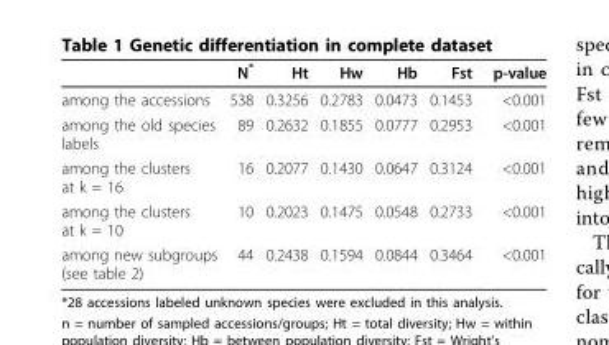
<table><thead><tr><td></td><td>N*</td><td>Ht</td><td>Hw</td><td>Hb</td><td>Fst</td><td>p-value</td></tr></thead><tbody><tr><td>among the accessions</td><td>538</td><td>0.3256</td><td>0.2783</td><td>0.0473</td><td>0.1453</td><td>&lt;0.001</td></tr><tr><td>among the old species labels</td><td>89</td><td>0.2632</td><td>0.1855</td><td>0.0777</td><td>0.2953</td><td>&lt;0.001</td></tr><tr><td>among the clusters at k = 16</td><td>16</td><td>0.2077</td><td>0.1430</td><td>0.0647</td><td>0.3124</td><td>&lt;0.001</td></tr><tr><td>among the clusters at k = 10</td><td>10</td><td>0.2023</td><td>0.1475</td><td>0.0548</td><td>0.2733</td><td>&lt;0.001</td></tr><tr><td>among new subgroups (see table 2)</td><td>44</td><td>0.2438</td><td>0.1594</td><td>0.0844</td><td>0.3464</td><td>&lt;0.001</td></tr></tbody></table>